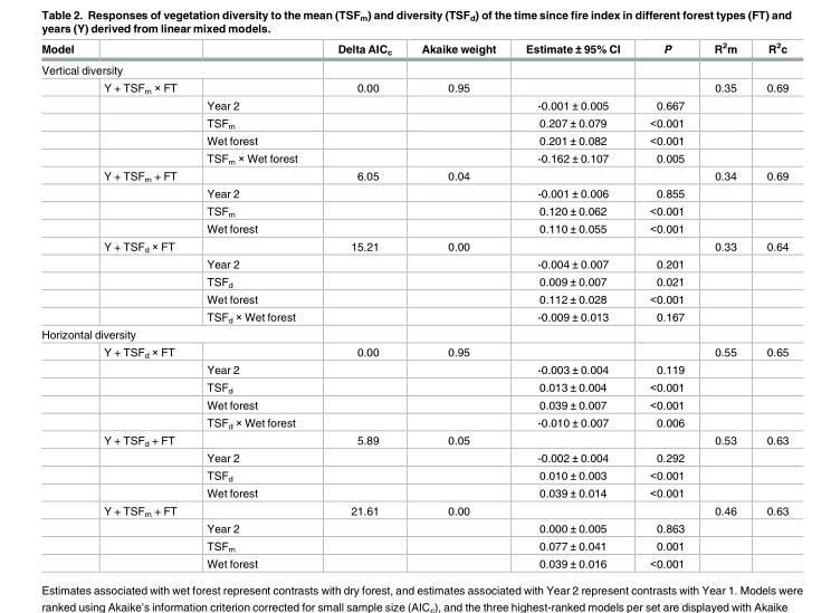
<table><thead><tr><td>Model</td><td></td><td></td><td>Delta AIC<sub>c</sub></td><td>Akaike weight</td><td>Estimate ± 95% CI</td><td>P</td><td>R<sup>2</sup>m</td><td>R<sup>2</sup>c</td></tr></thead><tbody><tr><td colspan="9">Vertical diversity</td></tr><tr><td></td><td>Y + TSF<sub>m</sub> × FT</td><td></td><td>0.00</td><td>0.95</td><td></td><td></td><td>0.35</td><td>0.69</td></tr><tr><td></td><td></td><td>Year 2</td><td></td><td></td><td>-0.001 ± 0.005</td><td>0.667</td><td></td><td></td></tr><tr><td></td><td></td><td>TSF<sub>m</sub></td><td></td><td></td><td>0.207 ± 0.079</td><td>&lt;0.001</td><td></td><td></td></tr><tr><td></td><td></td><td>Wet forest</td><td></td><td></td><td>0.201 ± 0.082</td><td>&lt;0.001</td><td></td><td></td></tr><tr><td></td><td></td><td>TSF<sub>m</sub> × Wet forest</td><td></td><td></td><td>-0.162 ± 0.107</td><td>0.005</td><td></td><td></td></tr><tr><td></td><td>Y + TSF<sub>m</sub> + FT</td><td></td><td>6.05</td><td>0.04</td><td></td><td></td><td>0.34</td><td>0.69</td></tr><tr><td></td><td></td><td>Year 2</td><td></td><td></td><td>-0.001 ± 0.006</td><td>0.855</td><td></td><td></td></tr><tr><td></td><td></td><td>TSF<sub>m</sub></td><td></td><td></td><td>0.120 ± 0.062</td><td>&lt;0.001</td><td></td><td></td></tr><tr><td></td><td></td><td>Wet forest</td><td></td><td></td><td>0.110 ± 0.055</td><td>&lt;0.001</td><td></td><td></td></tr><tr><td></td><td>Y + TSF<sub>d</sub> × FT</td><td></td><td>15.21</td><td>0.00</td><td></td><td></td><td>0.33</td><td>0.64</td></tr><tr><td></td><td></td><td>Year 2</td><td></td><td></td><td>-0.004 ± 0.007</td><td>0.201</td><td></td><td></td></tr><tr><td></td><td></td><td>TSF<sub>d</sub></td><td></td><td></td><td>0.009 ± 0.007</td><td>0.021</td><td></td><td></td></tr><tr><td></td><td></td><td>Wet forest</td><td></td><td></td><td>0.112 ± 0.028</td><td>&lt;0.001</td><td></td><td></td></tr><tr><td></td><td></td><td>TSF<sub>d</sub> × Wet forest</td><td></td><td></td><td>-0.009 ± 0.013</td><td>0.167</td><td></td><td></td></tr><tr><td colspan="9">Horizontal diversity</td></tr><tr><td></td><td>Y + TSF<sub>d</sub> × FT</td><td></td><td>0.00</td><td>0.95</td><td></td><td></td><td>0.55</td><td>0.65</td></tr><tr><td></td><td></td><td>Year 2</td><td></td><td></td><td>-0.003 ± 0.004</td><td>0.119</td><td></td><td></td></tr><tr><td></td><td></td><td>TSF<sub>d</sub></td><td></td><td></td><td>0.013 ± 0.004</td><td>&lt;0.001</td><td></td><td></td></tr><tr><td></td><td></td><td>Wet forest</td><td></td><td></td><td>0.039 ± 0.007</td><td>&lt;0.001</td><td></td><td></td></tr><tr><td></td><td></td><td>TSF<sub>d</sub> × Wet forest</td><td></td><td></td><td>-0.010 ± 0.007</td><td>0.006</td><td></td><td></td></tr><tr><td></td><td>Y + TSF<sub>d</sub> + FT</td><td></td><td>5.89</td><td>0.05</td><td></td><td></td><td>0.53</td><td>0.63</td></tr><tr><td></td><td></td><td>Year 2</td><td></td><td></td><td>-0.002 ± 0.004</td><td>0.292</td><td></td><td></td></tr><tr><td></td><td></td><td>TSF<sub>d</sub></td><td></td><td></td><td>0.010 ± 0.003</td><td>&lt;0.001</td><td></td><td></td></tr><tr><td></td><td></td><td>Wet forest</td><td></td><td></td><td>0.039 ± 0.014</td><td>&lt;0.001</td><td></td><td></td></tr><tr><td></td><td>Y + TSF<sub>m</sub> + FT</td><td></td><td>21.61</td><td>0.00</td><td></td><td></td><td>0.46</td><td>0.63</td></tr><tr><td></td><td></td><td>Year 2</td><td></td><td></td><td>0.000 ± 0.005</td><td>0.863</td><td></td><td></td></tr><tr><td></td><td></td><td>TSF<sub>m</sub></td><td></td><td></td><td>0.077 ± 0.041</td><td>0.001</td><td></td><td></td></tr><tr><td></td><td></td><td>Wet forest</td><td></td><td></td><td>0.039 ± 0.016</td><td>&lt;0.001</td><td></td><td></td></tr></tbody></table>